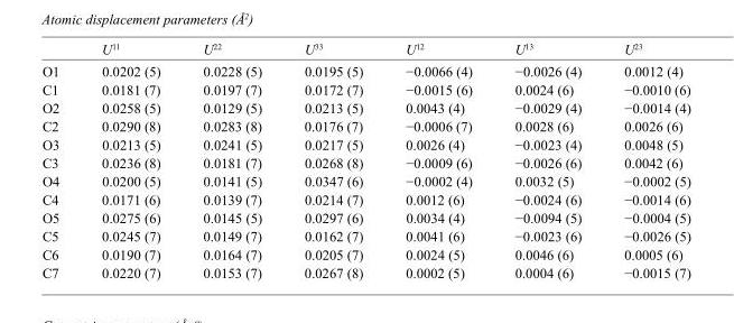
<table><thead><tr><td></td><td>U<sup>11</sup></td><td>U<sup>22</sup></td><td>U<sup>33</sup></td><td>U<sup>12</sup></td><td>U<sup>13</sup></td><td>U<sup>23</sup></td></tr></thead><tbody><tr><td>O1</td><td>0.0202 (5)</td><td>0.0228 (5)</td><td>0.0195 (5)</td><td>−0.0066 (4)</td><td>−0.0026 (4)</td><td>0.0012 (4)</td></tr><tr><td>C1</td><td>0.0181 (7)</td><td>0.0197 (7)</td><td>0.0172 (7)</td><td>−0.0015 (6)</td><td>0.0024 (6)</td><td>−0.0010 (6)</td></tr><tr><td>O2</td><td>0.0258 (5)</td><td>0.0129 (5)</td><td>0.0213 (5)</td><td>0.0043 (4)</td><td>−0.0029 (4)</td><td>−0.0014 (4)</td></tr><tr><td>C2</td><td>0.0290 (8)</td><td>0.0283 (8)</td><td>0.0176 (7)</td><td>−0.0006 (7)</td><td>0.0028 (6)</td><td>0.0026 (6)</td></tr><tr><td>O3</td><td>0.0213 (5)</td><td>0.0241 (5)</td><td>0.0217 (5)</td><td>0.0026 (4)</td><td>−0.0023 (4)</td><td>0.0048 (5)</td></tr><tr><td>C3</td><td>0.0236 (8)</td><td>0.0181 (7)</td><td>0.0268 (8)</td><td>−0.0009 (6)</td><td>−0.0026 (6)</td><td>0.0042 (6)</td></tr><tr><td>O4</td><td>0.0200 (5)</td><td>0.0141 (5)</td><td>0.0347 (6)</td><td>−0.0002 (4)</td><td>0.0032 (5)</td><td>−0.0002 (5)</td></tr><tr><td>C4</td><td>0.0171 (6)</td><td>0.0139 (7)</td><td>0.0214 (7)</td><td>0.0012 (6)</td><td>−0.0024 (6)</td><td>−0.0014 (6)</td></tr><tr><td>O5</td><td>0.0275 (6)</td><td>0.0145 (5)</td><td>0.0297 (6)</td><td>0.0034 (4)</td><td>−0.0094 (5)</td><td>−0.0004 (5)</td></tr><tr><td>C5</td><td>0.0245 (7)</td><td>0.0149 (7)</td><td>0.0162 (7)</td><td>0.0041 (6)</td><td>−0.0023 (6)</td><td>−0.0026 (5)</td></tr><tr><td>C6</td><td>0.0190 (7)</td><td>0.0164 (7)</td><td>0.0205 (7)</td><td>0.0024 (5)</td><td>0.0046 (6)</td><td>0.0005 (6)</td></tr><tr><td>C7</td><td>0.0220 (7)</td><td>0.0153 (7)</td><td>0.0267 (8)</td><td>0.0002 (5)</td><td>0.0004 (6)</td><td>−0.0015 (7)</td></tr></tbody></table>